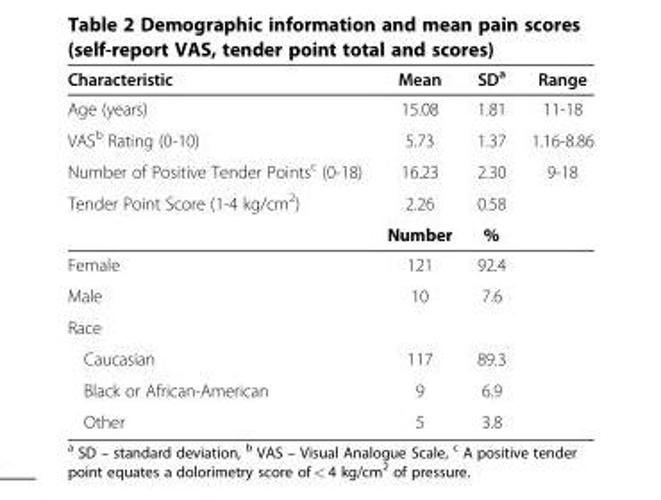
<table><thead><tr><td>Characteristic</td><td>Mean</td><td>SD<sup>a</sup></td><td>Range</td></tr></thead><tbody><tr><td>Age (years)</td><td>15.08</td><td>1.81</td><td>11-18</td></tr><tr><td>VAS<sup>b</sup> Rating (0-10)</td><td>5.73</td><td>1.37</td><td>1.16-8.86</td></tr><tr><td>Number of Positive Tender Points<sup>c</sup> (0-18)</td><td>16.23</td><td>2.30</td><td>9-18</td></tr><tr><td rowspan="2">Tender Point Score (1-4 kg/cm<sup>2</sup>)</td><td>2.26</td><td>0.58</td><td></td></tr><tr><td>Number</td><td>%</td><td></td></tr><tr><td>Female</td><td>121</td><td>92.4</td><td></td></tr><tr><td>Male</td><td>10</td><td>7.6</td><td></td></tr><tr><td colspan="4">Race</td></tr><tr><td>Caucasian</td><td>117</td><td>89.3</td><td></td></tr><tr><td>Black or African-American</td><td>9</td><td>6.9</td><td></td></tr><tr><td>Other</td><td>5</td><td>3.8</td><td></td></tr></tbody></table>